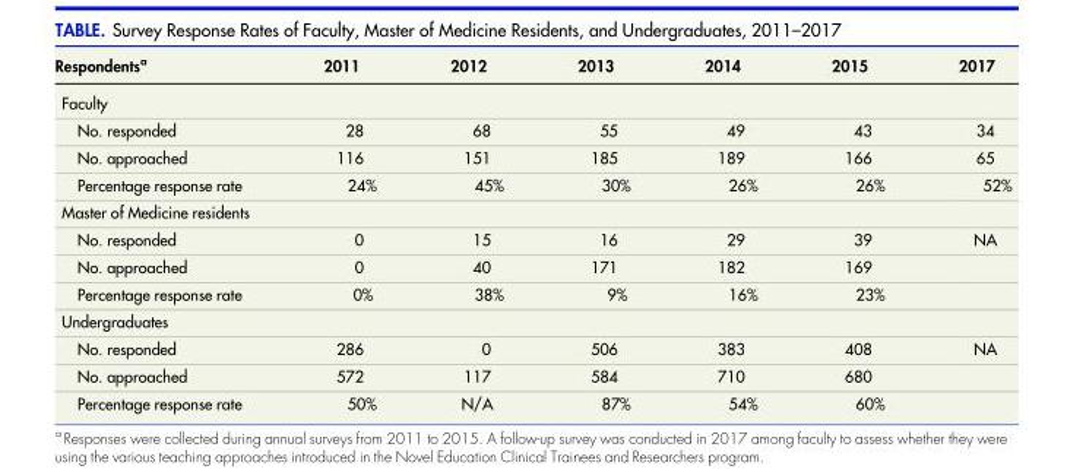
<table><thead><tr><td>Respondents<sup>a</sup></td><td>2011</td><td>2012</td><td>2013</td><td>2014</td><td>2015</td><td>2017</td></tr></thead><tbody><tr><td colspan="7">Faculty</td></tr><tr><td>No. responded</td><td>28</td><td>68</td><td>55</td><td>49</td><td>43</td><td>34</td></tr><tr><td>No. approached</td><td>116</td><td>151</td><td>185</td><td>189</td><td>166</td><td>65</td></tr><tr><td>Percentage response rate</td><td>24%</td><td>45%</td><td>30%</td><td>26%</td><td>26%</td><td>52%</td></tr><tr><td colspan="7">Master of Medicine residents</td></tr><tr><td>No. responded</td><td>0</td><td>15</td><td>16</td><td>29</td><td>39</td><td>NA</td></tr><tr><td>No. approached</td><td>0</td><td>40</td><td>171</td><td>182</td><td>169</td><td></td></tr><tr><td>Percentage response rate</td><td>0%</td><td>38%</td><td>9%</td><td>16%</td><td>23%</td><td></td></tr><tr><td colspan="7">Undergraduates</td></tr><tr><td>No. responded</td><td>286</td><td>0</td><td>506</td><td>383</td><td>408</td><td>NA</td></tr><tr><td>No. approached</td><td>572</td><td>117</td><td>584</td><td>710</td><td>680</td><td></td></tr><tr><td>Percentage response rate</td><td>50%</td><td>N/A</td><td>87%</td><td>54%</td><td>60%</td><td></td></tr></tbody></table>